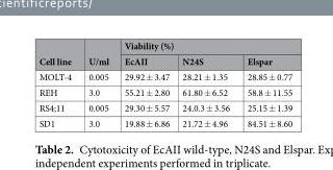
<table><thead><tr><td rowspan="2">Cell line</td><td rowspan="2">U/ml</td><td colspan="3">Viability (%)</td></tr><tr><td>EcAII</td><td>N24S</td><td>Elspar</td></tr></thead><tbody><tr><td>MOLT-4</td><td>0.005</td><td>29.92 ± 3.47</td><td>28.21 ± 1.35</td><td>28.85 ± 0.77</td></tr><tr><td>REH</td><td>3.0</td><td>55.21 ± 2.80</td><td>61.80 ± 6.52</td><td>58.8 ± 11.55</td></tr><tr><td>RS4;11</td><td>0.005</td><td>29.30 ± 5.57</td><td>24.0.3 ± 3.56</td><td>25.15 ± 1.39</td></tr><tr><td>SD1</td><td>3.0</td><td>19.88 ± 6.86</td><td>21.72 ± 4.96</td><td>84.51 ± 8.60</td></tr></tbody></table>